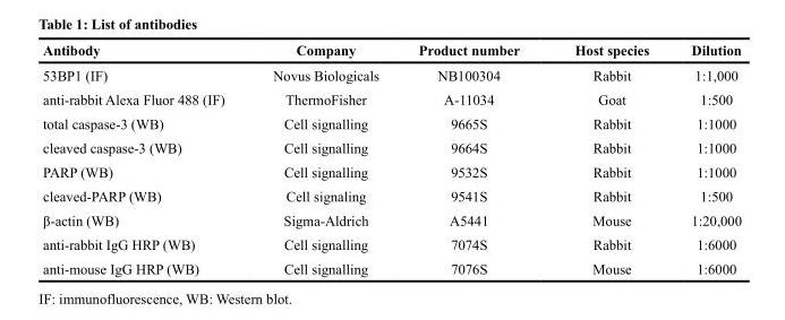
<table><thead><tr><td>Antibody</td><td>Company</td><td>Product number</td><td>Host species</td><td>Dilution</td></tr></thead><tbody><tr><td>53BP1 (IF)</td><td>Novus Biologicals</td><td>NB100304</td><td>Rabbit</td><td>1:1,000</td></tr><tr><td>anti-rabbit Alexa Fluor 488 (IF)</td><td>ThermoFisher</td><td>A-11034</td><td>Goat</td><td>1:500</td></tr><tr><td>total caspase-3 (WB)</td><td>Cell signalling</td><td>9665S</td><td>Rabbit</td><td>1:1000</td></tr><tr><td>cleaved caspase-3 (WB)</td><td>Cell signalling</td><td>9664S</td><td>Rabbit</td><td>1:1000</td></tr><tr><td>PARP (WB)</td><td>Cell signalling</td><td>9532S</td><td>Rabbit</td><td>1:1000</td></tr><tr><td>cleaved-PARP (WB)</td><td>Cell signaling</td><td>9541S</td><td>Rabbit</td><td>1:500</td></tr><tr><td>β-actin (WB)</td><td>Sigma-Aldrich</td><td>A5441</td><td>Mouse</td><td>1:20,000</td></tr><tr><td>anti-rabbit IgG HRP (WB)</td><td>Cell signalling</td><td>7074S</td><td>Rabbit</td><td>1:6000</td></tr><tr><td>anti-mouse IgG HRP (WB)</td><td>Cell signalling</td><td>7076S</td><td>Mouse</td><td>1:6000</td></tr></tbody></table>